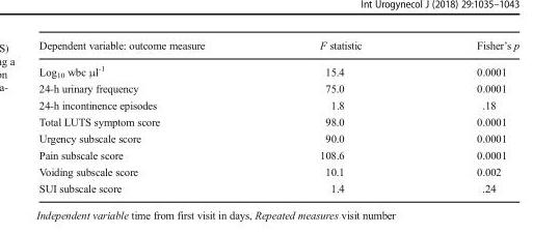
<table><thead><tr><td>Dependent variable: outcome measure</td><td>F statistic</td><td>Fisher’s p</td></tr></thead><tbody><tr><td>Log<sub>10</sub> wbc μl<sup>-1</sup></td><td>15.4</td><td>0.0001</td></tr><tr><td>24-h urinary frequency</td><td>75.0</td><td>0.0001</td></tr><tr><td>24-h incontinence episodes</td><td>1.8</td><td>.18</td></tr><tr><td>Total LUTS symptom score</td><td>98.0</td><td>0.0001</td></tr><tr><td>Urgency subscale score</td><td>90.0</td><td>0.0001</td></tr><tr><td>Pain subscale score</td><td>108.6</td><td>0.0001</td></tr><tr><td>Voiding subscale score</td><td>10.1</td><td>0.002</td></tr><tr><td>SUI subscale score</td><td>1.4</td><td>.24</td></tr></tbody></table>